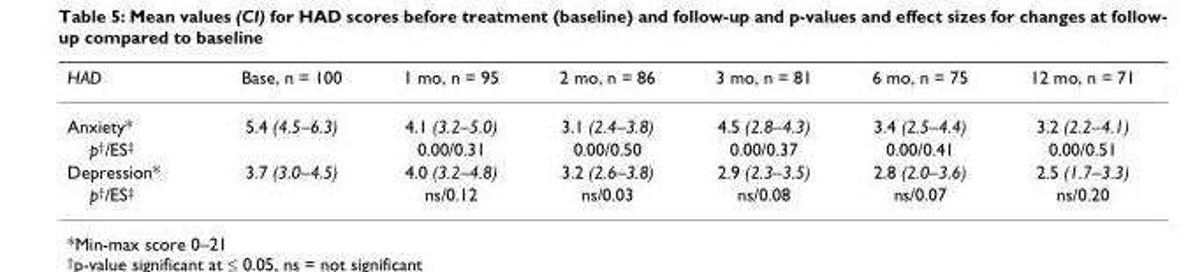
<table><thead><tr><td>HAD</td><td>Base, n = 100</td><td>1 mo, n = 95</td><td>2 mo, n = 86</td><td>3 mo, n = 81</td><td>6 mo, n = 75</td><td>12 mo, n = 71</td></tr></thead><tbody><tr><td>Anxiety*</td><td>5.4 (4.5–6.3)</td><td>4.1 (3.2–5.0)</td><td>3.1 (2.4–3.8)</td><td>4.5 (2.8–4.3)</td><td>3.4 (2.5–4.4)</td><td>3.2 (2.2–4.1)</td></tr><tr><td>p<sup>†</sup>/ES<sup>‡</sup></td><td></td><td>0.00/0.31</td><td>0.00/0.50</td><td>0.00/0.37</td><td>0.00/0.41</td><td>0.00/0.51</td></tr><tr><td>Depression*</td><td>3.7 (3.0–4.5)</td><td>4.0 (3.2–4.8)</td><td>3.2 (2.6–3.8)</td><td>2.9 (2.3–3.5)</td><td>2.8 (2.0–3.6)</td><td>2.5 (1.7–3.3)</td></tr><tr><td>p<sup>†</sup>/ES<sup>‡</sup></td><td></td><td>ns/0.12</td><td>ns/0.03</td><td>ns/0.08</td><td>ns/0.07</td><td>ns/0.20</td></tr></tbody></table>